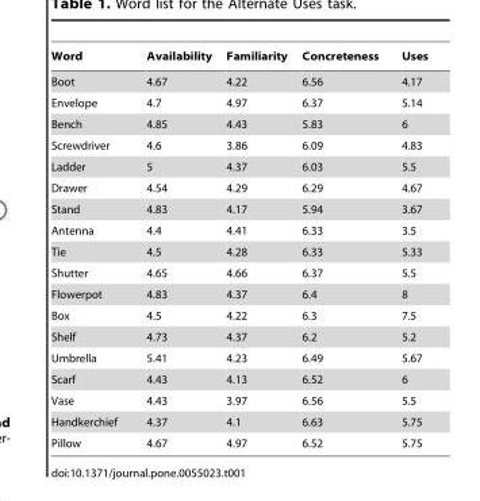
<table><thead><tr><td>Word</td><td>Availability</td><td>Familiarity</td><td>Concreteness</td><td>Uses</td></tr></thead><tbody><tr><td>Boot</td><td>4.67</td><td>4.22</td><td>6.56</td><td>4.17</td></tr><tr><td>Envelope</td><td>4.7</td><td>4.97</td><td>6.37</td><td>5.14</td></tr><tr><td>Bench</td><td>4.85</td><td>4.43</td><td>5.83</td><td>6</td></tr><tr><td>Screwdriver</td><td>4.6</td><td>3.86</td><td>6.09</td><td>4.83</td></tr><tr><td>Ladder</td><td>5</td><td>4.37</td><td>6.03</td><td>5.5</td></tr><tr><td>Drawer</td><td>4.54</td><td>4.29</td><td>6.29</td><td>4.67</td></tr><tr><td>Stand</td><td>4.83</td><td>4.17</td><td>5.94</td><td>3.67</td></tr><tr><td>Antenna</td><td>4.4</td><td>4.41</td><td>6.33</td><td>3.5</td></tr><tr><td>Tie</td><td>4.5</td><td>4.28</td><td>6.33</td><td>5.33</td></tr><tr><td>Shutter</td><td>4.65</td><td>4.66</td><td>6.37</td><td>5.5</td></tr><tr><td>Flowerpot</td><td>4.83</td><td>4.37</td><td>6.4</td><td>8</td></tr><tr><td>Box</td><td>4.5</td><td>4.22</td><td>6.3</td><td>7.5</td></tr><tr><td>Shelf</td><td>4.73</td><td>4.37</td><td>6.2</td><td>5.2</td></tr><tr><td>Umbrella</td><td>5.41</td><td>4.23</td><td>6.49</td><td>5.67</td></tr><tr><td>Scarf</td><td>4.43</td><td>4.13</td><td>6.52</td><td>6</td></tr><tr><td>Vase</td><td>4.43</td><td>3.97</td><td>6.56</td><td>5.5</td></tr><tr><td>Handkerchief</td><td>4.37</td><td>4.1</td><td>6.63</td><td>5.75</td></tr><tr><td>Pillow</td><td>4.67</td><td>4.97</td><td>6.52</td><td>5.75</td></tr></tbody></table>